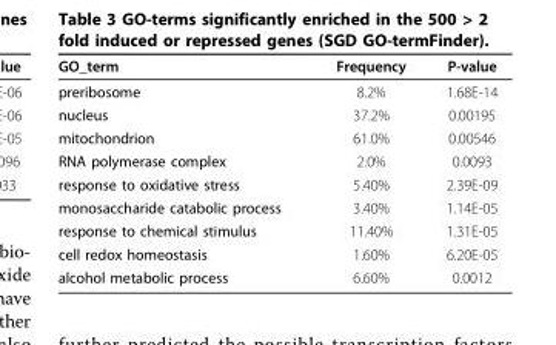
<table><thead><tr><td>GO_term</td><td>Frequency</td><td>P-value</td></tr></thead><tbody><tr><td>preribosome</td><td>8.2%</td><td>1.68E-14</td></tr><tr><td>nucleus</td><td>37.2%</td><td>0.00195</td></tr><tr><td>mitochondrion</td><td>61.0%</td><td>0.00546</td></tr><tr><td>RNA polymerase complex</td><td>2.0%</td><td>0.0093</td></tr><tr><td>response to oxidative stress</td><td>5.40%</td><td>2.39E-09</td></tr><tr><td>monosaccharide catabolic process</td><td>3.40%</td><td>1.14E-05</td></tr><tr><td>response to chemical stimulus</td><td>11.40%</td><td>1.31E-05</td></tr><tr><td>cell redox homeostasis</td><td>1.60%</td><td>6.20E-05</td></tr><tr><td>alcohol metabolic process</td><td>6.60%</td><td>0.0012</td></tr></tbody></table>